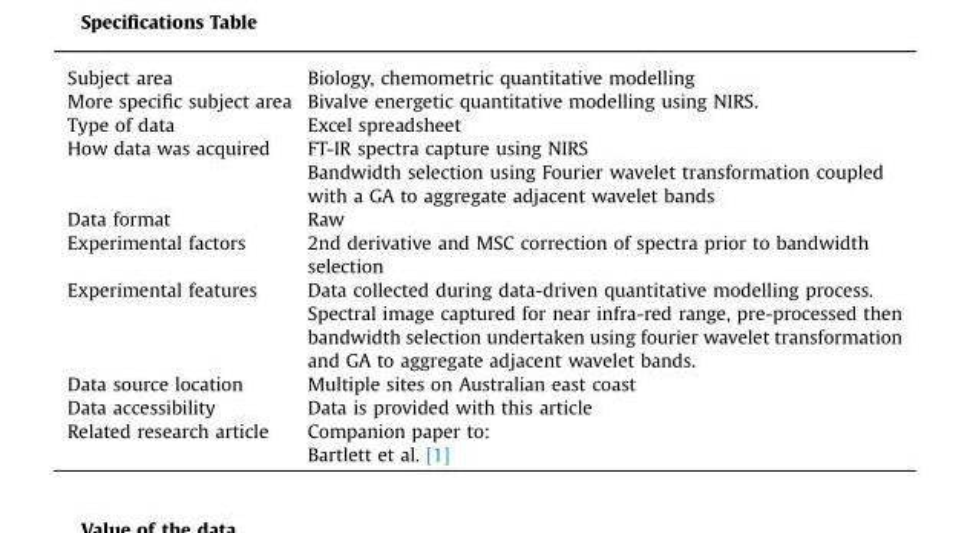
<table><tbody><tr><td>Subject area</td><td>Biology, chemometric quantitative modelling</td></tr><tr><td>More specific subject area</td><td>Bivalve energetic quantitative modelling using NIRS.</td></tr><tr><td>Type of data</td><td>Excel spreadsheet</td></tr><tr><td rowspan="2">How data was acquired</td><td>FT-IR spectra capture using NIRS</td></tr><tr><td>Bandwidth selection using Fourier wavelet transformation coupled with a GA to aggregate adjacent wavelet bands</td></tr><tr><td>Data format</td><td>Raw</td></tr><tr><td>Experimental factors</td><td>2nd derivative and MSC correction of spectra prior to bandwidth selection</td></tr><tr><td>Experimental features</td><td>Data collected during data-driven quantitative modelling process. Spectral image captured for near infra-red range, pre-processed then bandwidth selection undertaken using fourier wavelet transformation and GA to aggregate adjacent wavelet bands.</td></tr><tr><td>Data source location</td><td>Multiple sites on Australian east coast</td></tr><tr><td>Data accessibility</td><td>Data is provided with this article</td></tr><tr><td rowspan="2">Related research article</td><td>Companion paper to:</td></tr><tr><td>Bartlett et al. [1]</td></tr></tbody></table>